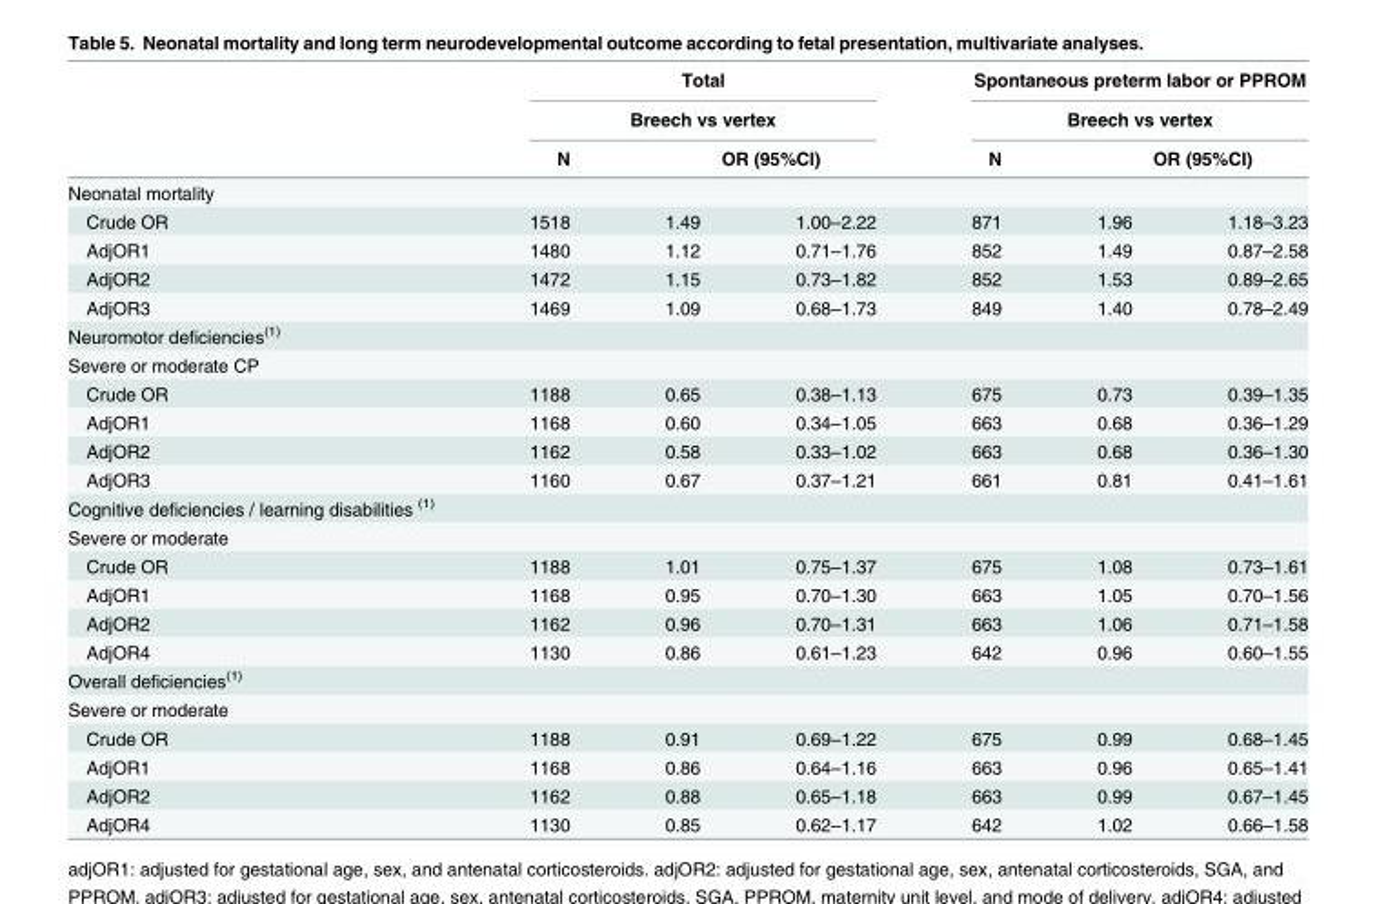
<table><thead><tr><td rowspan="4">Neonatal mortality</td><td rowspan="2" colspan="3">Total Breech vs vertex</td><td rowspan="2" colspan="3">Spontaneous preterm labor or PPROM Breech vs vertex</td></tr><tr></tr><tr><td rowspan="2">N</td><td colspan="2">OR (95%CI)</td><td rowspan="2">N</td><td colspan="2">OR (95%CI)</td></tr><tr><td></td><td></td><td></td><td></td></tr></thead><tbody><tr><td>Crude OR</td><td>1518</td><td>1.49</td><td>1.00–2.22</td><td>871</td><td>1.96</td><td>1.18–3.23</td></tr><tr><td>AdjOR1</td><td>1480</td><td>1.12</td><td>0.71–1.76</td><td>852</td><td>1.49</td><td>0.87–2.58</td></tr><tr><td>AdjOR2</td><td>1472</td><td>1.15</td><td>0.73–1.82</td><td>852</td><td>1.53</td><td>0.89–2.65</td></tr><tr><td>AdjOR3</td><td>1469</td><td>1.09</td><td>0.68–1.73</td><td>849</td><td>1.40</td><td>0.78–2.49</td></tr><tr><td colspan="7">Neuromotor deficiencies<sup>(1)</sup></td></tr><tr><td colspan="7">Severe or moderate CP</td></tr><tr><td>Crude OR</td><td>1188</td><td>0.65</td><td>0.38–1.13</td><td>675</td><td>0.73</td><td>0.39–1.35</td></tr><tr><td>AdjOR1</td><td>1168</td><td>0.60</td><td>0.34–1.05</td><td>663</td><td>0.68</td><td>0.36–1.29</td></tr><tr><td>AdjOR2</td><td>1162</td><td>0.58</td><td>0.33–1.02</td><td>663</td><td>0.68</td><td>0.36–1.30</td></tr><tr><td>AdjOR3</td><td>1160</td><td>0.67</td><td>0.37–1.21</td><td>661</td><td>0.81</td><td>0.41–1.61</td></tr><tr><td colspan="7">Cognitive deficiencies / learning disabilities <sup>(1)</sup></td></tr><tr><td colspan="7">Severe or moderate</td></tr><tr><td>Crude OR</td><td>1188</td><td>1.01</td><td>0.75–1.37</td><td>675</td><td>1.08</td><td>0.73–1.61</td></tr><tr><td>AdjOR1</td><td>1168</td><td>0.95</td><td>0.70–1.30</td><td>663</td><td>1.05</td><td>0.70–1.56</td></tr><tr><td>AdjOR2</td><td>1162</td><td>0.96</td><td>0.70–1.31</td><td>663</td><td>1.06</td><td>0.71–1.58</td></tr><tr><td>AdjOR4</td><td>1130</td><td>0.86</td><td>0.61–1.23</td><td>642</td><td>0.96</td><td>0.60–1.55</td></tr><tr><td colspan="7">Overall deficiencies<sup>(1)</sup></td></tr><tr><td colspan="7">Severe or moderate</td></tr><tr><td>Crude OR</td><td>1188</td><td>0.91</td><td>0.69–1.22</td><td>675</td><td>0.99</td><td>0.68–1.45</td></tr><tr><td>AdjOR1</td><td>1168</td><td>0.86</td><td>0.64–1.16</td><td>663</td><td>0.96</td><td>0.65–1.41</td></tr><tr><td>AdjOR2</td><td>1162</td><td>0.88</td><td>0.65–1.18</td><td>663</td><td>0.99</td><td>0.67–1.45</td></tr><tr><td>AdjOR4</td><td>1130</td><td>0.85</td><td>0.62–1.17</td><td>642</td><td>1.02</td><td>0.66–1.58</td></tr></tbody></table>